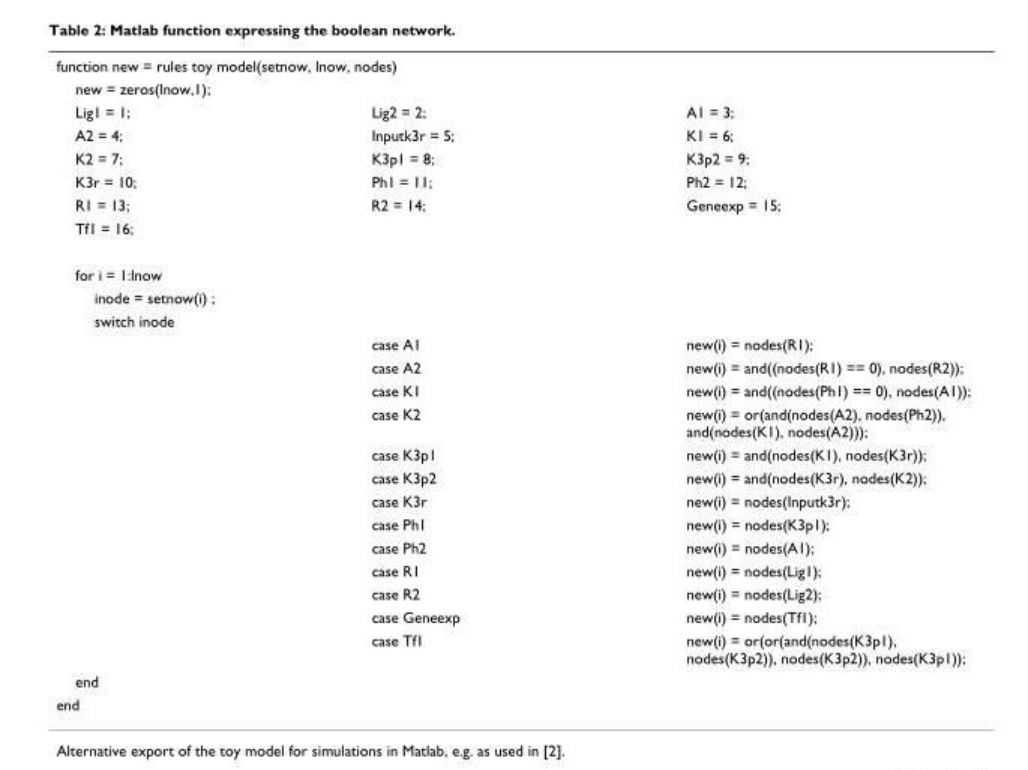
<table><tbody><tr><td colspan="3">function new = rules toy model(setnow, lnow, nodes)</td></tr><tr><td colspan="3">new = zeros(lnow,1);</td></tr><tr><td>Lig1 = 1;</td><td>Lig2 = 2;</td><td>A1 = 3;</td></tr><tr><td>A2 = 4;</td><td>Inputk3r = 5;</td><td>K1 = 6;</td></tr><tr><td>K2 = 7;</td><td>K3p1 = 8;</td><td>K3p2 = 9;</td></tr><tr><td>K3r = 10;</td><td>Ph1 = 11;</td><td>Ph2 = 12;</td></tr><tr><td>R1 = 13;</td><td>R2 = 14;</td><td>Geneexp = 15;</td></tr><tr><td colspan="3">Tf1 = 16;</td></tr><tr><td colspan="3">for i = 1:lnow</td></tr><tr><td colspan="3">inode = setnow(i) ;</td></tr><tr><td colspan="3">switch inode</td></tr><tr><td></td><td>case A1</td><td>new(i) = nodes(R1);</td></tr><tr><td></td><td>case A2</td><td>new(i) = and((nodes(R1) == 0), nodes(R2));</td></tr><tr><td></td><td>case K1</td><td>new(i) = and((nodes(Ph1) == 0), nodes(A1));</td></tr><tr><td></td><td>case K2</td><td>new(i) = or(and(nodes(A2), nodes(Ph2)), and(nodes(K1), nodes(A2)));</td></tr><tr><td></td><td>case K3p1</td><td>new(i) = and(nodes(K1), nodes(K3r));</td></tr><tr><td></td><td>case K3p2</td><td>new(i) = and(nodes(K3r), nodes(K2));</td></tr><tr><td></td><td>case K3r</td><td>new(i) = nodes(Inputk3r);</td></tr><tr><td></td><td>case Ph1</td><td>new(i) = nodes(K3p1);</td></tr><tr><td></td><td>case Ph2</td><td>new(i) = nodes(A1);</td></tr><tr><td></td><td>case R1</td><td>new(i) = nodes(Lig1);</td></tr><tr><td></td><td>case R2</td><td>new(i) = nodes(Lig2);</td></tr><tr><td></td><td>case Geneexp</td><td>new(i) = nodes(Tf1);</td></tr><tr><td></td><td>case Tf1</td><td>new(i) = or(or(and(nodes(K3p1), nodes(K3p2)), nodes(K3p2)), nodes(K3p1));</td></tr><tr><td colspan="3">end</td></tr><tr><td>end</td><td></td><td></td></tr></tbody></table>